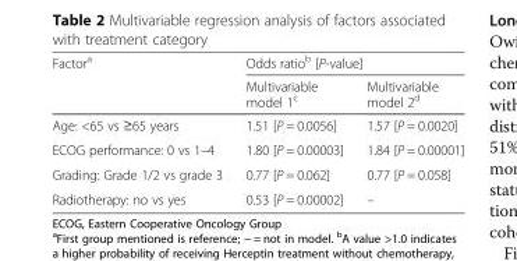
<table><thead><tr><td rowspan="2">Factor<sup>a</sup></td><td colspan="2">Odds ratio<sup>b</sup> [P-value]</td></tr><tr><td>Multivariable model 1<sup>c</sup></td><td>Multivariable model 2<sup>d</sup></td></tr></thead><tbody><tr><td>Age: &lt;65 vs ≥65 years</td><td>1.51 [P = 0.0056]</td><td>1.57 [P = 0.0020]</td></tr><tr><td>ECOG performance: 0 vs 1–4</td><td>1.80 [P = 0.00003]</td><td>1.84 [P = 0.00001]</td></tr><tr><td>Grading: Grade 1/2 vs grade 3</td><td>0.77 [P = 0.062]</td><td>0.77 [P = 0.058]</td></tr><tr><td>Radiotherapy: no vs yes</td><td>0.53 [P = 0.00002]</td><td>–</td></tr></tbody></table>